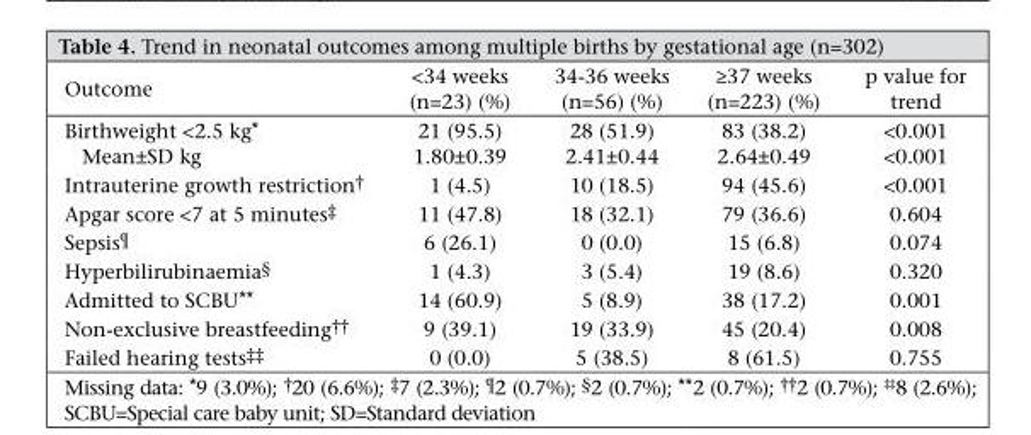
<table><thead><tr><td>Outcome</td><td>&lt;34 weeks (n=23) (%)</td><td>34-36 weeks (n=56) (%)</td><td>≥37 weeks (n=223) (%)</td><td>p value for trend</td></tr></thead><tbody><tr><td>Birthweight &lt;2.5 kg*</td><td>21 (95.5)</td><td>28 (51.9)</td><td>83 (38.2)</td><td>&lt;0.001</td></tr><tr><td>Mean±SD kg</td><td>1.80±0.39</td><td>2.41±0.44</td><td>2.64±0.49</td><td>&lt;0.001</td></tr><tr><td>Intrauterine growth restriction†</td><td>1 (4.5)</td><td>10 (18.5)</td><td>94 (45.6)</td><td>&lt;0.001</td></tr><tr><td>Apgar score &lt;7 at 5 minutes‡</td><td>11 (47.8)</td><td>18 (32.1)</td><td>79 (36.6)</td><td>0.604</td></tr><tr><td>Sepsis¶</td><td>6 (26.1)</td><td>0 (0.0)</td><td>15 (6.8)</td><td>0.074</td></tr><tr><td>Hyperbilirubinaemia§</td><td>1 (4.3)</td><td>3 (5.4)</td><td>19 (8.6)</td><td>0.320</td></tr><tr><td>Admitted to SCBU**</td><td>14 (60.9)</td><td>5 (8.9)</td><td>38 (17.2)</td><td>0.001</td></tr><tr><td>Non-exclusive breastfeeding††</td><td>9 (39.1)</td><td>19 (33.9)</td><td>45 (20.4)</td><td>0.008</td></tr><tr><td>Failed hearing tests‡‡</td><td>0 (0.0)</td><td>5 (38.5)</td><td>8 (61.5)</td><td>0.755</td></tr></tbody></table>